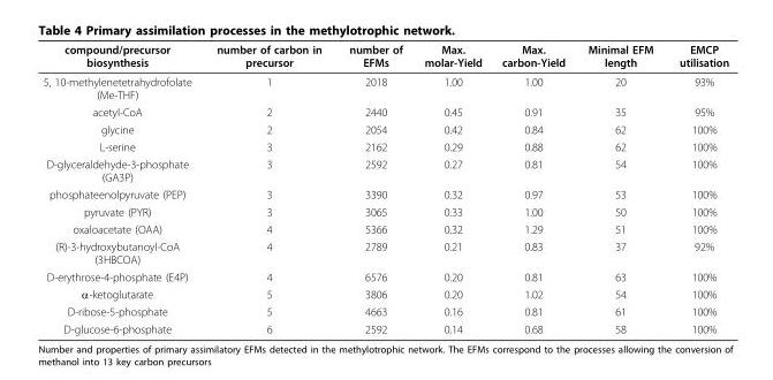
<table><thead><tr><td>compound/precursor biosynthesis</td><td>number of carbon in precursor</td><td>number of EFMs</td><td>Max. molar-Yield</td><td>Max. carbon-Yield</td><td>Minimal EFM length</td><td>EMCP utilisation</td></tr></thead><tbody><tr><td>5, 10-methylenetetrahydrofolate (Me-THF)</td><td>1</td><td>2018</td><td>1.00</td><td>1.00</td><td>20</td><td>93%</td></tr><tr><td>acetyl-CoA</td><td>2</td><td>2440</td><td>0.45</td><td>0.91</td><td>35</td><td>95%</td></tr><tr><td>glycine</td><td>2</td><td>2054</td><td>0.42</td><td>0.84</td><td>62</td><td>100%</td></tr><tr><td>L-serine</td><td>3</td><td>2162</td><td>0.29</td><td>0.88</td><td>62</td><td>100%</td></tr><tr><td>D-glyceraldehyde-3-phosphate (GA3P)</td><td>3</td><td>2592</td><td>0.27</td><td>0.81</td><td>54</td><td>100%</td></tr><tr><td>phosphateenolpyruvate (PEP)</td><td>3</td><td>3390</td><td>0.32</td><td>0.97</td><td>53</td><td>100%</td></tr><tr><td>pyruvate (PYR)</td><td>3</td><td>3065</td><td>0.33</td><td>1.00</td><td>50</td><td>100%</td></tr><tr><td>oxaloacetate (OAA)</td><td>4</td><td>5366</td><td>0.32</td><td>1.29</td><td>51</td><td>100%</td></tr><tr><td>(R)-3-hydroxybutanoyl-CoA (3HBCOA)</td><td>4</td><td>2789</td><td>0.21</td><td>0.83</td><td>37</td><td>92%</td></tr><tr><td>D-erythrose-4-phosphate (E4P)</td><td>4</td><td>6576</td><td>0.20</td><td>0.81</td><td>63</td><td>100%</td></tr><tr><td>α-ketoglutarate</td><td>5</td><td>3806</td><td>0.20</td><td>1.02</td><td>54</td><td>100%</td></tr><tr><td>D-ribose-5-phosphate</td><td>5</td><td>4663</td><td>0.16</td><td>0.81</td><td>61</td><td>100%</td></tr><tr><td>D-glucose-6-phosphate</td><td>6</td><td>2592</td><td>0.14</td><td>0.68</td><td>58</td><td>100%</td></tr></tbody></table>